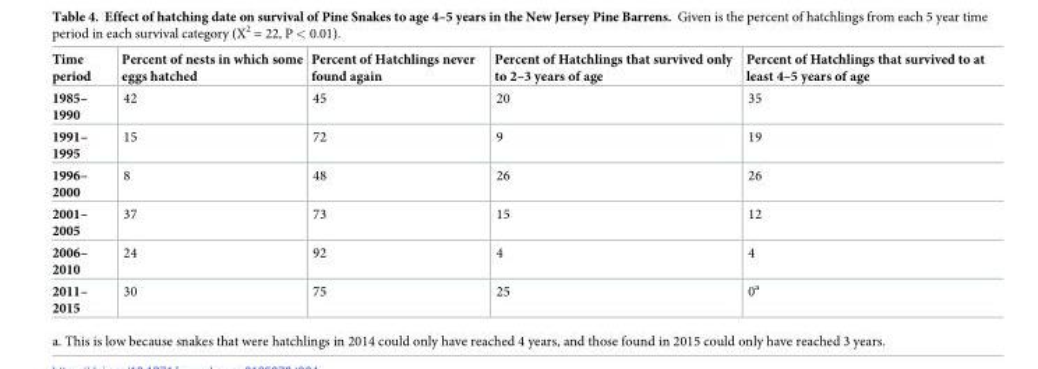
<table><thead><tr><td>Time period</td><td>Percent of nests in which some eggs hatched</td><td>Percent of Hatchlings never found again</td><td>Percent of Hatchlings that survived only to 2–3 years of age</td><td>Percent of Hatchlings that survived to at least 4–5 years of age</td></tr></thead><tbody><tr><td>1985– 1990</td><td>42</td><td>45</td><td>20</td><td>35</td></tr><tr><td>1991– 1995</td><td>15</td><td>72</td><td>9</td><td>19</td></tr><tr><td>1996– 2000</td><td>8</td><td>48</td><td>26</td><td>26</td></tr><tr><td>2001– 2005</td><td>37</td><td>73</td><td>15</td><td>12</td></tr><tr><td>2006– 2010</td><td>24</td><td>92</td><td>4</td><td>4</td></tr><tr><td>2011– 2015</td><td>30</td><td>75</td><td>25</td><td>0<sup>a</sup></td></tr></tbody></table>